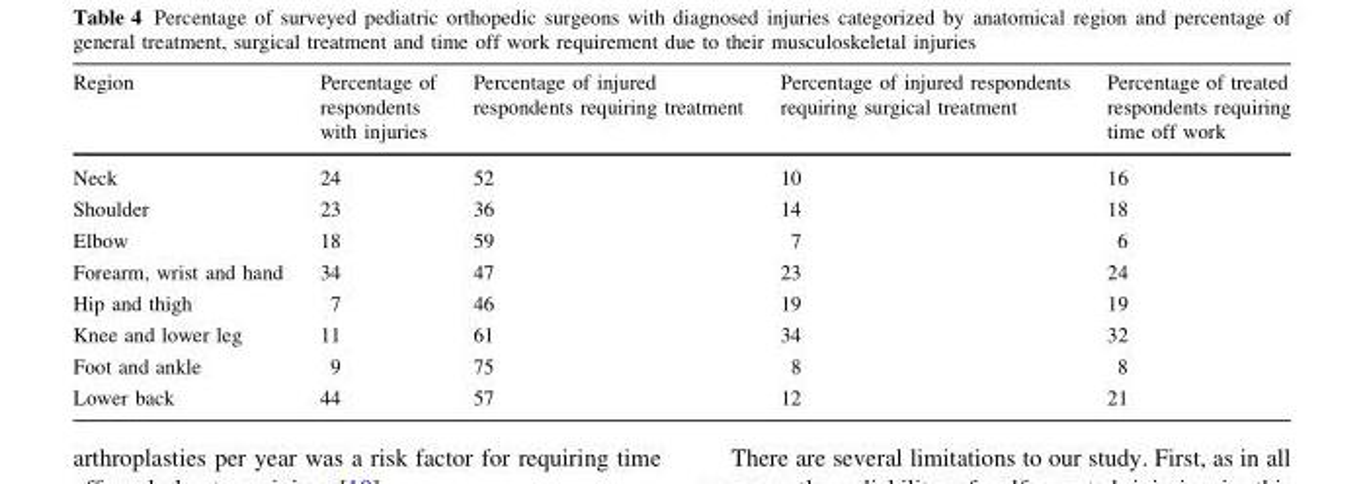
<table><thead><tr><td>Region</td><td>Percentage of respondents with injuries</td><td>Percentage of injured respondents requiring treatment</td><td>Percentage of injured respondents requiring surgical treatment</td><td>Percentage of treated respondents requiring time off work</td></tr></thead><tbody><tr><td>Neck</td><td>24</td><td>52</td><td>10</td><td>16</td></tr><tr><td>Shoulder</td><td>23</td><td>36</td><td>14</td><td>18</td></tr><tr><td>Elbow</td><td>18</td><td>59</td><td>7</td><td>6</td></tr><tr><td>Forearm, wrist and hand</td><td>34</td><td>47</td><td>23</td><td>24</td></tr><tr><td>Hip and thigh</td><td>7</td><td>46</td><td>19</td><td>19</td></tr><tr><td>Knee and lower leg</td><td>11</td><td>61</td><td>34</td><td>32</td></tr><tr><td>Foot and ankle</td><td>9</td><td>75</td><td>8</td><td>8</td></tr><tr><td>Lower back</td><td>44</td><td>57</td><td>12</td><td>21</td></tr></tbody></table>